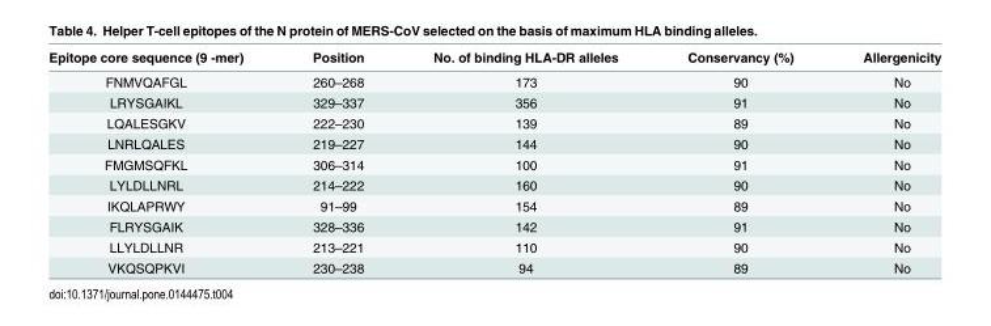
<table><thead><tr><td>Epitope core sequence (9 -mer)</td><td>Position</td><td>No. of binding HLA-DR alleles</td><td>Conservancy (%)</td><td>Allergenicity</td></tr></thead><tbody><tr><td>FNMVQAFGL</td><td>260–268</td><td>173</td><td>90</td><td>No</td></tr><tr><td>LRYSGAIKL</td><td>329–337</td><td>356</td><td>91</td><td>No</td></tr><tr><td>LQALESGKV</td><td>222–230</td><td>139</td><td>89</td><td>No</td></tr><tr><td>LNRLQALES</td><td>219–227</td><td>144</td><td>90</td><td>No</td></tr><tr><td>FMGMSQFKL</td><td>306–314</td><td>100</td><td>91</td><td>No</td></tr><tr><td>LYLDLLNRL</td><td>214–222</td><td>160</td><td>90</td><td>No</td></tr><tr><td>IKQLAPRWY</td><td>91–99</td><td>154</td><td>89</td><td>No</td></tr><tr><td>FLRYSGAIK</td><td>328–336</td><td>142</td><td>91</td><td>No</td></tr><tr><td>LLYLDLLNR</td><td>213–221</td><td>110</td><td>90</td><td>No</td></tr><tr><td>VKQSQPKVI</td><td>230–238</td><td>94</td><td>89</td><td>No</td></tr></tbody></table>